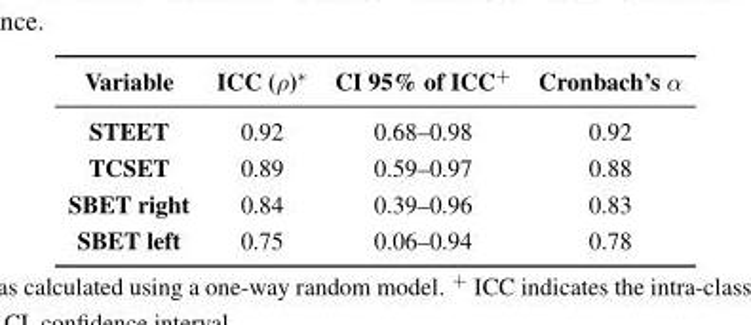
<table><thead><tr><td>Variable</td><td>ICC (ρ)∗</td><td>CI 95% of ICC<sup>+</sup></td><td>Cronbach’s α</td></tr></thead><tbody><tr><td>STEET</td><td>0.92</td><td>0.68–0.98</td><td>0.92</td></tr><tr><td>TCSET</td><td>0.89</td><td>0.59–0.97</td><td>0.88</td></tr><tr><td>SBET right</td><td>0.84</td><td>0.39–0.96</td><td>0.83</td></tr><tr><td>SBET left</td><td>0.75</td><td>0.06–0.94</td><td>0.78</td></tr></tbody></table>